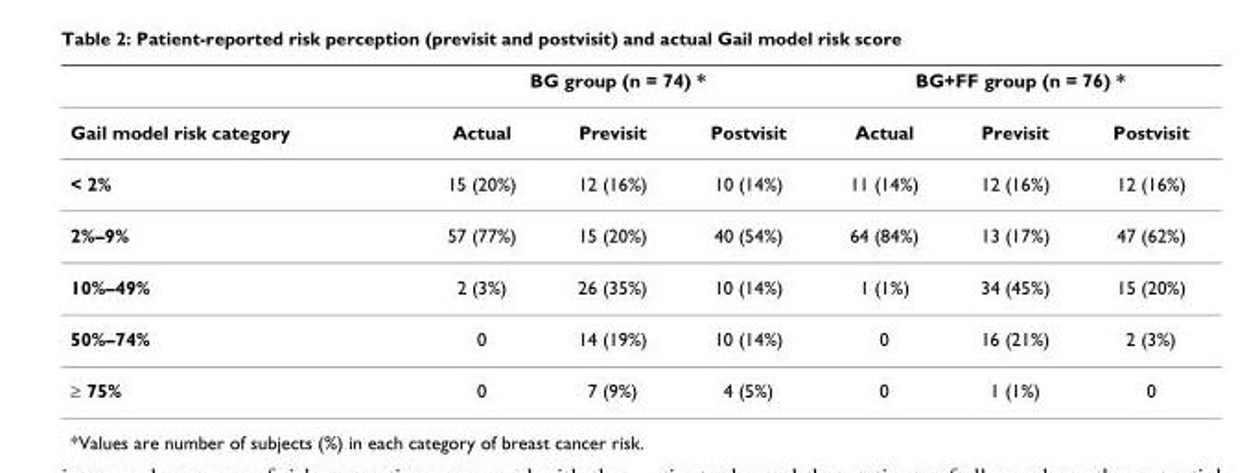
<table><thead><tr><td rowspan="2">Gail model risk category</td><td colspan="3">BG group (n = 74) *</td><td colspan="3">BG+FF group (n = 76) *</td></tr><tr><td>Actual</td><td>Previsit</td><td>Postvisit</td><td>Actual</td><td>Previsit</td><td>Postvisit</td></tr></thead><tbody><tr><td>&lt; 2%</td><td>15 (20%)</td><td>12 (16%)</td><td>10 (14%)</td><td>11 (14%)</td><td>12 (16%)</td><td>12 (16%)</td></tr><tr><td>2%–9%</td><td>57 (77%)</td><td>15 (20%)</td><td>40 (54%)</td><td>64 (84%)</td><td>13 (17%)</td><td>47 (62%)</td></tr><tr><td>10%–49%</td><td>2 (3%)</td><td>26 (35%)</td><td>10 (14%)</td><td>1 (1%)</td><td>34 (45%)</td><td>15 (20%)</td></tr><tr><td>50%–74%</td><td>0</td><td>14 (19%)</td><td>10 (14%)</td><td>0</td><td>16 (21%)</td><td>2 (3%)</td></tr><tr><td>≥ 75%</td><td>0</td><td>7 (9%)</td><td>4 (5%)</td><td>0</td><td>1 (1%)</td><td>0</td></tr></tbody></table>